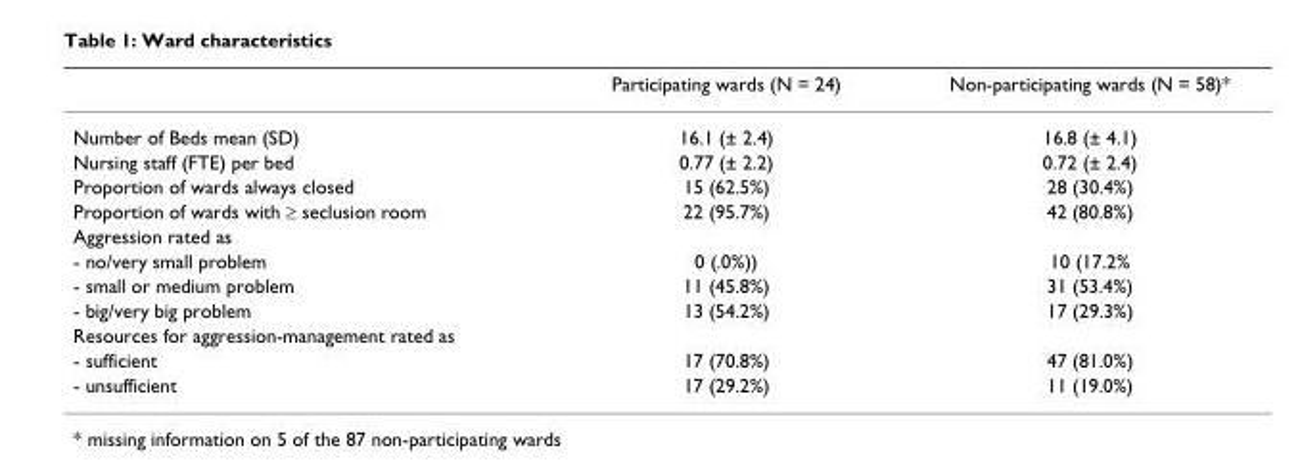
<table><thead><tr><td></td><td>Participating wards (N = 24)</td><td>Non-participating wards (N = 58)*</td></tr></thead><tbody><tr><td>Number of Beds mean (SD)</td><td>16.1 (± 2.4)</td><td>16.8 (± 4.1)</td></tr><tr><td>Nursing staff (FTE) per bed</td><td>0.77 (± 2.2)</td><td>0.72 (± 2.4)</td></tr><tr><td>Proportion of wards always closed</td><td>15 (62.5%)</td><td>28 (30.4%)</td></tr><tr><td>Proportion of wards with ≥ seclusion room</td><td>22 (95.7%)</td><td>42 (80.8%)</td></tr><tr><td colspan="3">Aggression rated as</td></tr><tr><td>- no/very small problem</td><td>0 (.0%))</td><td>10 (17.2%</td></tr><tr><td>- small or medium problem</td><td>11 (45.8%)</td><td>31 (53.4%)</td></tr><tr><td>- big/very big problem</td><td>13 (54.2%)</td><td>17 (29.3%)</td></tr><tr><td colspan="3">Resources for aggression-management rated as</td></tr><tr><td>- sufficient</td><td>17 (70.8%)</td><td>47 (81.0%)</td></tr><tr><td>- unsufficient</td><td>17 (29.2%)</td><td>11 (19.0%)</td></tr></tbody></table>